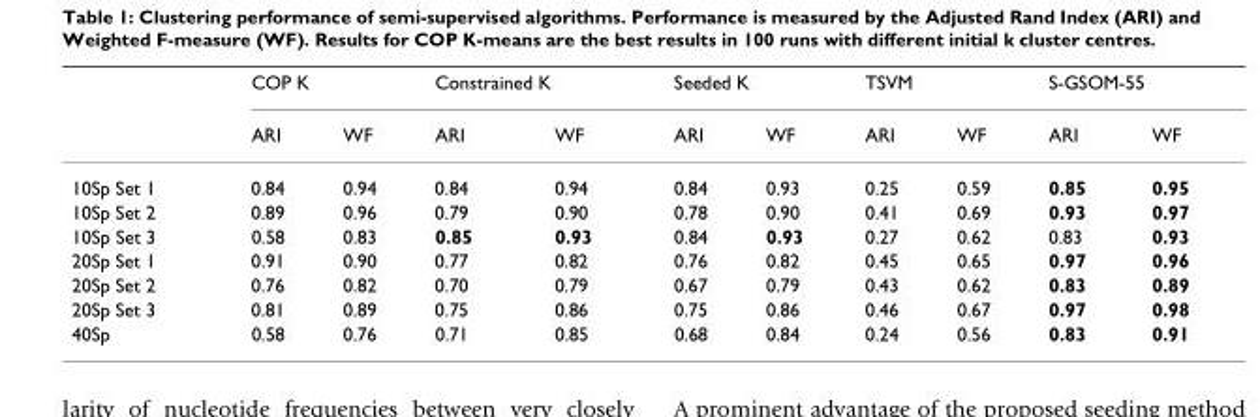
<table><thead><tr><td rowspan="2"></td><td colspan="2">COP K</td><td colspan="2">Constrained K</td><td colspan="2">Seeded K</td><td colspan="2">TSVM</td><td colspan="2">S-GSOM-55</td></tr><tr><td>ARI</td><td>WF</td><td>ARI</td><td>WF</td><td>ARI</td><td>WF</td><td>ARI</td><td>WF</td><td>ARI</td><td>WF</td></tr></thead><tbody><tr><td>10Sp Set 1</td><td>0.84</td><td>0.94</td><td>0.84</td><td>0.94</td><td>0.84</td><td>0.93</td><td>0.25</td><td>0.59</td><td>0.85</td><td>0.95</td></tr><tr><td>10Sp Set 2</td><td>0.89</td><td>0.96</td><td>0.79</td><td>0.90</td><td>0.78</td><td>0.90</td><td>0.41</td><td>0.69</td><td>0.93</td><td>0.97</td></tr><tr><td>10Sp Set 3</td><td>0.58</td><td>0.83</td><td>0.85</td><td>0.93</td><td>0.84</td><td>0.93</td><td>0.27</td><td>0.62</td><td>0.83</td><td>0.93</td></tr><tr><td>20Sp Set 1</td><td>0.91</td><td>0.90</td><td>0.77</td><td>0.82</td><td>0.76</td><td>0.82</td><td>0.45</td><td>0.65</td><td>0.97</td><td>0.96</td></tr><tr><td>20Sp Set 2</td><td>0.76</td><td>0.82</td><td>0.70</td><td>0.79</td><td>0.67</td><td>0.79</td><td>0.43</td><td>0.62</td><td>0.83</td><td>0.89</td></tr><tr><td>20Sp Set 3</td><td>0.81</td><td>0.89</td><td>0.75</td><td>0.86</td><td>0.75</td><td>0.86</td><td>0.46</td><td>0.67</td><td>0.97</td><td>0.98</td></tr><tr><td>40Sp</td><td>0.58</td><td>0.76</td><td>0.71</td><td>0.85</td><td>0.68</td><td>0.84</td><td>0.24</td><td>0.56</td><td>0.83</td><td>0.91</td></tr></tbody></table>